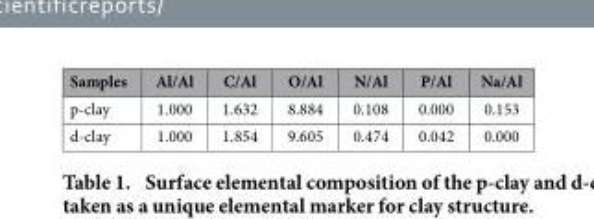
<table><thead><tr><td>Samples</td><td>Al/Al</td><td>C/Al</td><td>O/Al</td><td>N/Al</td><td>P/Al</td><td>Na/Al</td></tr></thead><tbody><tr><td>p-clay</td><td>1.000</td><td>1.632</td><td>8.884</td><td>0.108</td><td>0.000</td><td>0.153</td></tr><tr><td>d-clay</td><td>1.000</td><td>1.854</td><td>9.605</td><td>0.474</td><td>0.042</td><td>0.000</td></tr></tbody></table>